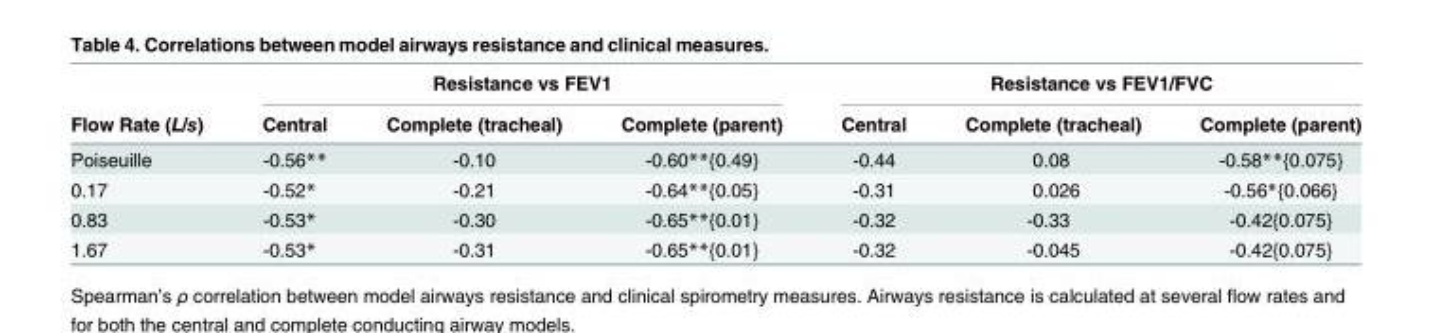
<table><thead><tr><td rowspan="2">Flow Rate (L/s)</td><td colspan="3">Resistance vs FEV1</td><td colspan="3">Resistance vs FEV1/FVC</td></tr><tr><td>Central</td><td>Complete (tracheal)</td><td>Complete (parent)</td><td>Central</td><td>Complete (tracheal)</td><td>Complete (parent)</td></tr></thead><tbody><tr><td>Poiseuille</td><td>-0.56**</td><td>-0.10</td><td>-0.60**{0.49}</td><td>-0.44</td><td>0.08</td><td>-0.58**{0.075}</td></tr><tr><td>0.17</td><td>-0.52*</td><td>-0.21</td><td>-0.64**{0.05}</td><td>-0.31</td><td>0.026</td><td>-0.56*{0.066}</td></tr><tr><td>0.83</td><td>-0.53*</td><td>-0.30</td><td>-0.65**{0.01}</td><td>-0.32</td><td>-0.33</td><td>-0.42{0.075}</td></tr><tr><td>1.67</td><td>-0.53*</td><td>-0.31</td><td>-0.65**{0.01}</td><td>-0.32</td><td>-0.045</td><td>-0.42{0.075}</td></tr></tbody></table>